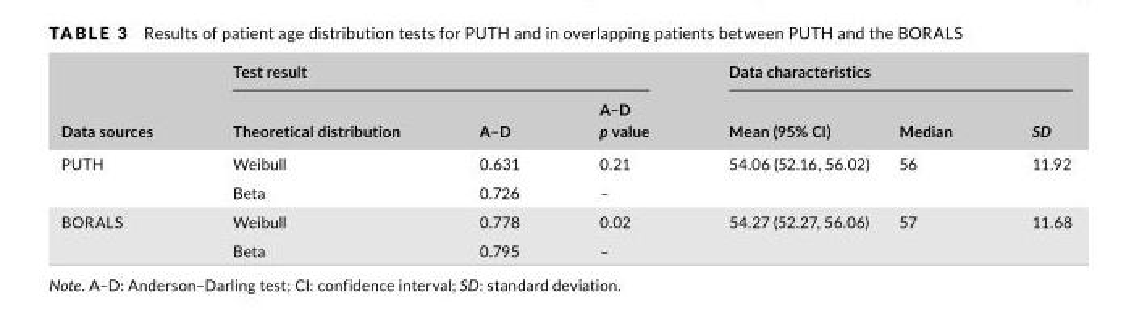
<table><thead><tr><td rowspan="2">Data sources</td><td colspan="3">Test result</td><td colspan="3">Data characteristics</td></tr><tr><td>Theoretical distribution</td><td>A–D</td><td>A–D p value</td><td>Mean (95% CI)</td><td>Median</td><td>SD</td></tr></thead><tbody><tr><td rowspan="2">PUTH</td><td>Weibull</td><td>0.631</td><td>0.21</td><td>54.06 (52.16, 56.02)</td><td>56</td><td>11.92</td></tr><tr><td>Beta</td><td>0.726</td><td>–</td><td></td><td></td><td></td></tr><tr><td rowspan="2">BORALS</td><td>Weibull</td><td>0.778</td><td>0.02</td><td>54.27 (52.27, 56.06)</td><td>57</td><td>11.68</td></tr><tr><td>Beta</td><td>0.795</td><td>–</td><td></td><td></td><td></td></tr></tbody></table>